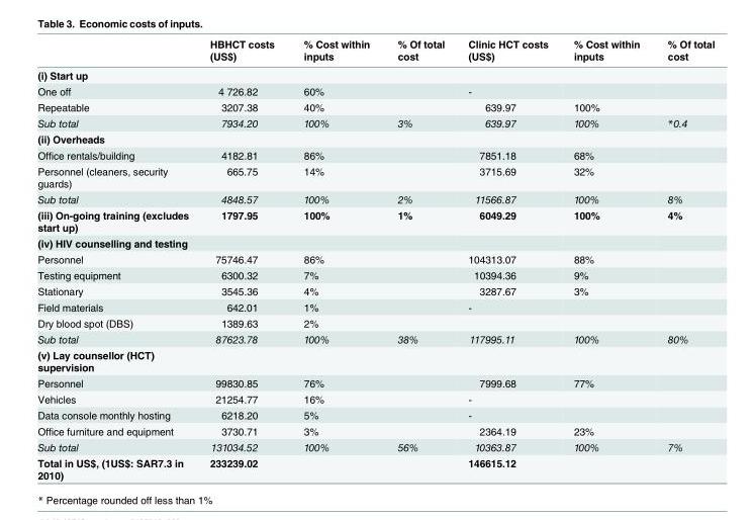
<table><thead><tr><td></td><td>HBHCT costs (US$)</td><td>% Cost within inputs</td><td>% Of total cost</td><td>Clinic HCT costs (US$)</td><td>% Cost within inputs</td><td>% Of total cost</td></tr></thead><tbody><tr><td colspan="7">(i) Start up</td></tr><tr><td>One off</td><td>4 726.82</td><td>60%</td><td></td><td>-</td><td></td><td></td></tr><tr><td>Repeatable</td><td>3207.38</td><td>40%</td><td></td><td>639.97</td><td>100%</td><td></td></tr><tr><td>Sub total</td><td>7934.20</td><td>100%</td><td>3%</td><td>639.97</td><td>100%</td><td>*0.4</td></tr><tr><td colspan="7">(ii) Overheads</td></tr><tr><td>Office rentals/building</td><td>4182.81</td><td>86%</td><td></td><td>7851.18</td><td>68%</td><td></td></tr><tr><td>Personnel (cleaners, security guards)</td><td>665.75</td><td>14%</td><td></td><td>3715.69</td><td>32%</td><td></td></tr><tr><td>Sub total</td><td>4848.57</td><td>100%</td><td>2%</td><td>11566.87</td><td>100%</td><td>8%</td></tr><tr><td>(iii) On-going training (excludes start up)</td><td>1797.95</td><td>100%</td><td>1%</td><td>6049.29</td><td>100%</td><td>4%</td></tr><tr><td colspan="7">(iv) HIV counselling and testing</td></tr><tr><td>Personnel</td><td>75746.47</td><td>86%</td><td></td><td>104313.07</td><td>88%</td><td></td></tr><tr><td>Testing equipment</td><td>6300.32</td><td>7%</td><td></td><td>10394.36</td><td>9%</td><td></td></tr><tr><td>Stationary</td><td>3545.36</td><td>4%</td><td></td><td>3287.67</td><td>3%</td><td></td></tr><tr><td>Field materials</td><td>642.01</td><td>1%</td><td></td><td>-</td><td></td><td></td></tr><tr><td>Dry blood spot (DBS)</td><td>1389.63</td><td>2%</td><td></td><td></td><td></td><td></td></tr><tr><td>Sub total</td><td>87623.78</td><td>100%</td><td>38%</td><td>117995.11</td><td>100%</td><td>80%</td></tr><tr><td colspan="7">(v) Lay counsellor (HCT) supervision</td></tr><tr><td>Personnel</td><td>99830.85</td><td>76%</td><td></td><td>7999.68</td><td>77%</td><td></td></tr><tr><td>Vehicles</td><td>21254.77</td><td>16%</td><td></td><td>-</td><td></td><td></td></tr><tr><td>Data console monthly hosting</td><td>6218.20</td><td>5%</td><td></td><td>-</td><td></td><td></td></tr><tr><td>Office furniture and equipment</td><td>3730.71</td><td>3%</td><td></td><td>2364.19</td><td>23%</td><td></td></tr><tr><td>Sub total</td><td>131034.52</td><td>100%</td><td>56%</td><td>10363.87</td><td>100%</td><td>7%</td></tr><tr><td>Total in US$, (1US$: SAR7.3 in 2010)</td><td>233239.02</td><td></td><td></td><td>146615.12</td><td></td><td></td></tr></tbody></table>